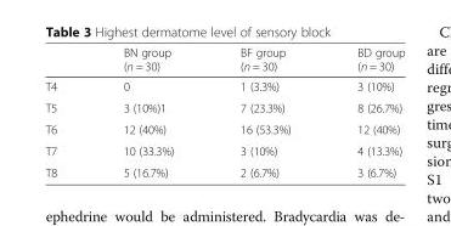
<table><thead><tr><td></td><td>BN group (n = 30)</td><td>BF group (n = 30)</td><td>BD group (n = 30)</td></tr></thead><tbody><tr><td>T4</td><td>0</td><td>1 (3.3%)</td><td>3 (10%)</td></tr><tr><td>T5</td><td>3 (10%)1</td><td>7 (23.3%)</td><td>8 (26.7%)</td></tr><tr><td>T6</td><td>12 (40%)</td><td>16 (53.3%)</td><td>12 (40%)</td></tr><tr><td>T7</td><td>10 (33.3%)</td><td>3 (10%)</td><td>4 (13.3%)</td></tr><tr><td>T8</td><td>5 (16.7%)</td><td>2 (6.7%)</td><td>3 (6.7%)</td></tr></tbody></table>